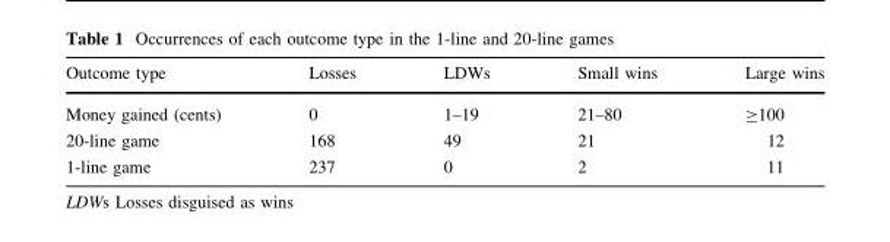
<table><thead><tr><td>Outcome type</td><td>Losses</td><td>LDWs</td><td>Small wins</td><td>Large wins</td></tr></thead><tbody><tr><td>Money gained (cents)</td><td>0</td><td>1–19</td><td>21–80</td><td>≥100</td></tr><tr><td>20-line game</td><td>168</td><td>49</td><td>21</td><td>12</td></tr><tr><td>1-line game</td><td>237</td><td>0</td><td>2</td><td>11</td></tr></tbody></table>